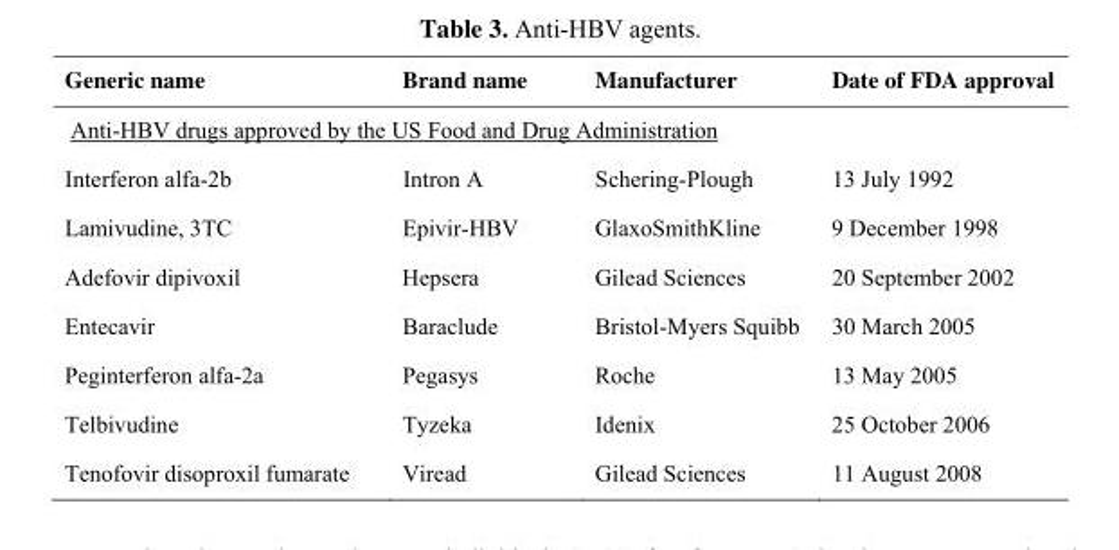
<table><thead><tr><td>Generic name</td><td>Brand name</td><td>Manufacturer</td><td>Date of FDA approval</td></tr></thead><tbody><tr><td colspan="4">Anti-HBV drugs approved by the US Food and Drug Administration</td></tr><tr><td>Interferon alfa-2b</td><td>Intron A</td><td>Schering-Plough</td><td>13 July 1992</td></tr><tr><td>Lamivudine, 3TC</td><td>Epivir-HBV</td><td>GlaxoSmithKline</td><td>9 December 1998</td></tr><tr><td>Adefovir dipivoxil</td><td>Hepsera</td><td>Gilead Sciences</td><td>20 September 2002</td></tr><tr><td>Entecavir</td><td>Baraclude</td><td>Bristol-Myers Squibb</td><td>30 March 2005</td></tr><tr><td>Peginterferon alfa-2a</td><td>Pegasys</td><td>Roche</td><td>13 May 2005</td></tr><tr><td>Telbivudine</td><td>Tyzeka</td><td>Idenix</td><td>25 October 2006</td></tr><tr><td>Tenofovir disoproxil fumarate</td><td>Viread</td><td>Gilead Sciences</td><td>11 August 2008</td></tr></tbody></table>